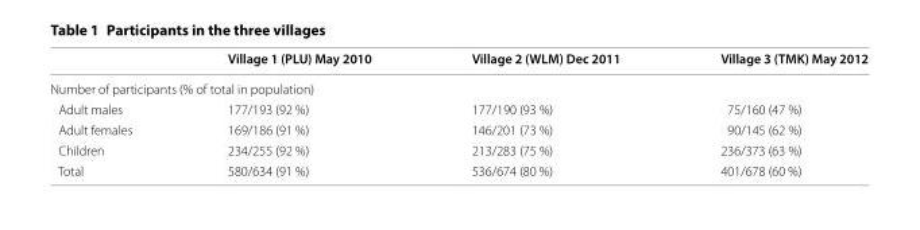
<table><thead><tr><td></td><td>Village 1 (PLU) May 2010</td><td>Village 2 (WLM) Dec 2011</td><td>Village 3 (TMK) May 2012</td></tr></thead><tbody><tr><td colspan="4">Number of participants (% of total in population)</td></tr><tr><td>Adult males</td><td>177/193 (92 %)</td><td>177/190 (93 %)</td><td>75/160 (47 %)</td></tr><tr><td>Adult females</td><td>169/186 (91 %)</td><td>146/201 (73 %)</td><td>90/145 (62 %)</td></tr><tr><td>Children</td><td>234/255 (92 %)</td><td>213/283 (75 %)</td><td>236/373 (63 %)</td></tr><tr><td>Total</td><td>580/634 (91 %)</td><td>536/674 (80 %)</td><td>401/678 (60 %)</td></tr></tbody></table>